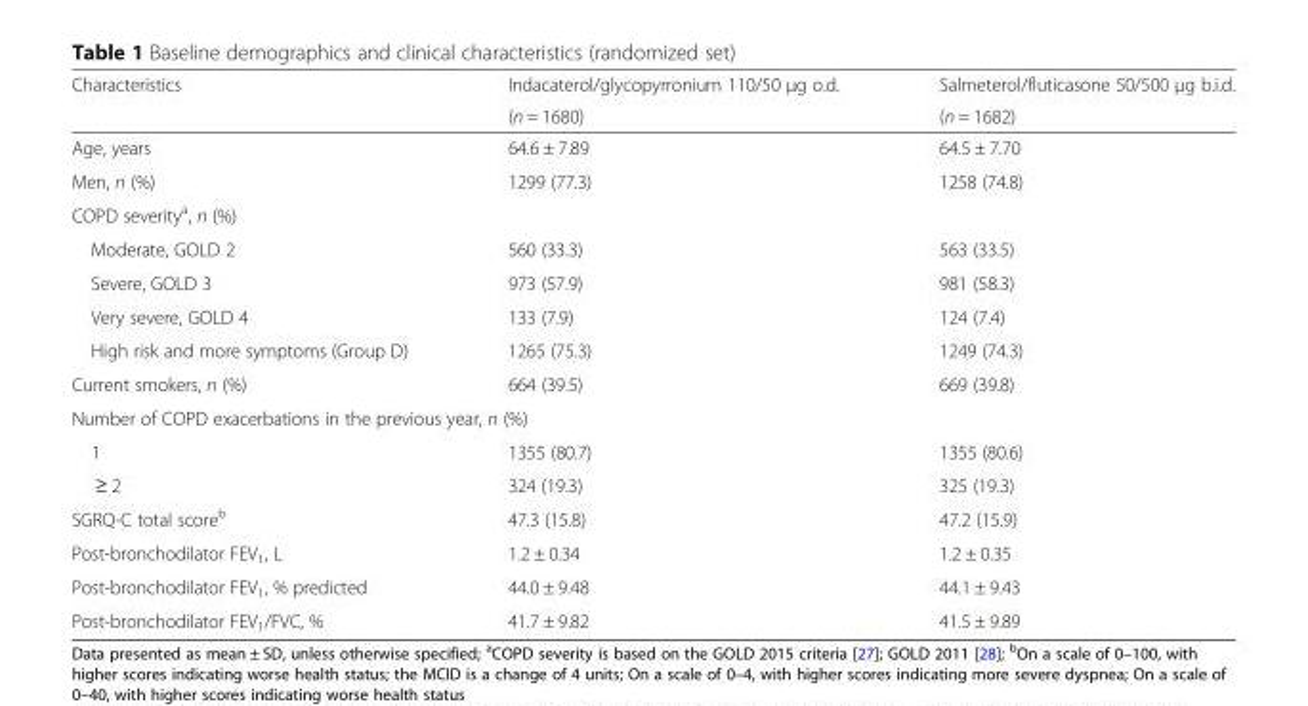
<table><thead><tr><td rowspan="2">Characteristics</td><td rowspan="2">Indacaterol/glycopyrronium 110/50 μg o.d. (n = 1680)</td><td rowspan="2">Salmeterol/fluticasone 50/500 μg b.i.d. (n = 1682)</td></tr><tr></tr></thead><tbody><tr><td>Age, years</td><td>64.6 ± 7.89</td><td>64.5 ± 7.70</td></tr><tr><td>Men, n (%)</td><td>1299 (77.3)</td><td>1258 (74.8)</td></tr><tr><td colspan="3">COPD severity<sup>a</sup>, n (%)</td></tr><tr><td>Moderate, GOLD 2</td><td>560 (33.3)</td><td>563 (33.5)</td></tr><tr><td>Severe, GOLD 3</td><td>973 (57.9)</td><td>981 (58.3)</td></tr><tr><td>Very severe, GOLD 4</td><td>133 (7.9)</td><td>124 (7.4)</td></tr><tr><td>High risk and more symptoms (Group D)</td><td>1265 (75.3)</td><td>1249 (74.3)</td></tr><tr><td>Current smokers, n (%)</td><td>664 (39.5)</td><td>669 (39.8)</td></tr><tr><td colspan="3">Number of COPD exacerbations in the previous year, n (%)</td></tr><tr><td>1</td><td>1355 (80.7)</td><td>1355 (80.6)</td></tr><tr><td>≥ 2</td><td>324 (19.3)</td><td>325 (19.3)</td></tr><tr><td>SGRQ-C total score<sup>b</sup></td><td>47.3 (15.8)</td><td>47.2 (15.9)</td></tr><tr><td>Post-bronchodilator FEV<sub>1</sub>, L</td><td>1.2 ± 0.34</td><td>1.2 ± 0.35</td></tr><tr><td>Post-bronchodilator FEV<sub>1</sub>, % predicted</td><td>44.0 ± 9.48</td><td>44.1 ± 9.43</td></tr><tr><td>Post-bronchodilator FEV<sub>1</sub>/FVC, %</td><td>41.7 ± 9.82</td><td>41.5 ± 9.89</td></tr></tbody></table>